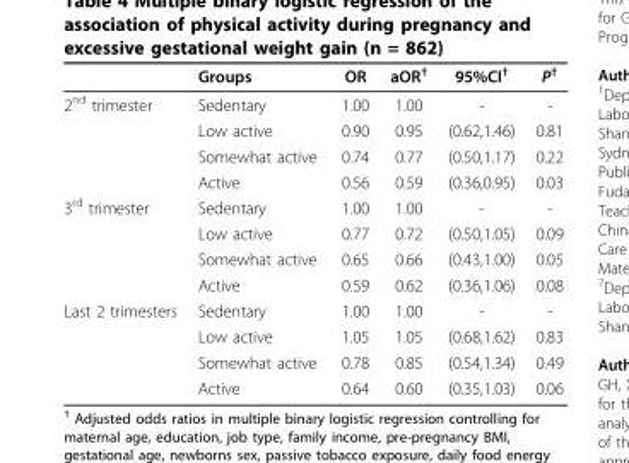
<table><thead><tr><td></td><td>Groups</td><td>OR</td><td>aOR<sup>†</sup></td><td>95%CI<sup>†</sup></td><td>P<sup>†</sup></td></tr></thead><tbody><tr><td rowspan="4">2<sup>nd</sup> trimester</td><td>Sedentary</td><td>1.00</td><td>1.00</td><td>-</td><td>-</td></tr><tr><td>Low active</td><td>0.90</td><td>0.95</td><td>(0.62,1.46)</td><td>0.81</td></tr><tr><td>Somewhat active</td><td>0.74</td><td>0.77</td><td>(0.50,1.17)</td><td>0.22</td></tr><tr><td>Active</td><td>0.56</td><td>0.59</td><td>(0.36,0.95)</td><td>0.03</td></tr><tr><td rowspan="4">3<sup>rd</sup> trimester</td><td>Sedentary</td><td>1.00</td><td>1.00</td><td>-</td><td>-</td></tr><tr><td>Low active</td><td>0.77</td><td>0.72</td><td>(0.50,1.05)</td><td>0.09</td></tr><tr><td>Somewhat active</td><td>0.65</td><td>0.66</td><td>(0.43,1.00)</td><td>0.05</td></tr><tr><td>Active</td><td>0.59</td><td>0.62</td><td>(0.36,1.06)</td><td>0.08</td></tr><tr><td rowspan="4">Last 2 trimesters</td><td>Sedentary</td><td>1.00</td><td>1.00</td><td>-</td><td>-</td></tr><tr><td>Low active</td><td>1.05</td><td>1.05</td><td>(0.68,1.62)</td><td>0.83</td></tr><tr><td>Somewhat active</td><td>0.78</td><td>0.85</td><td>(0.54,1.34)</td><td>0.49</td></tr><tr><td>Active</td><td>0.64</td><td>0.60</td><td>(0.35,1.03)</td><td>0.06</td></tr></tbody></table>